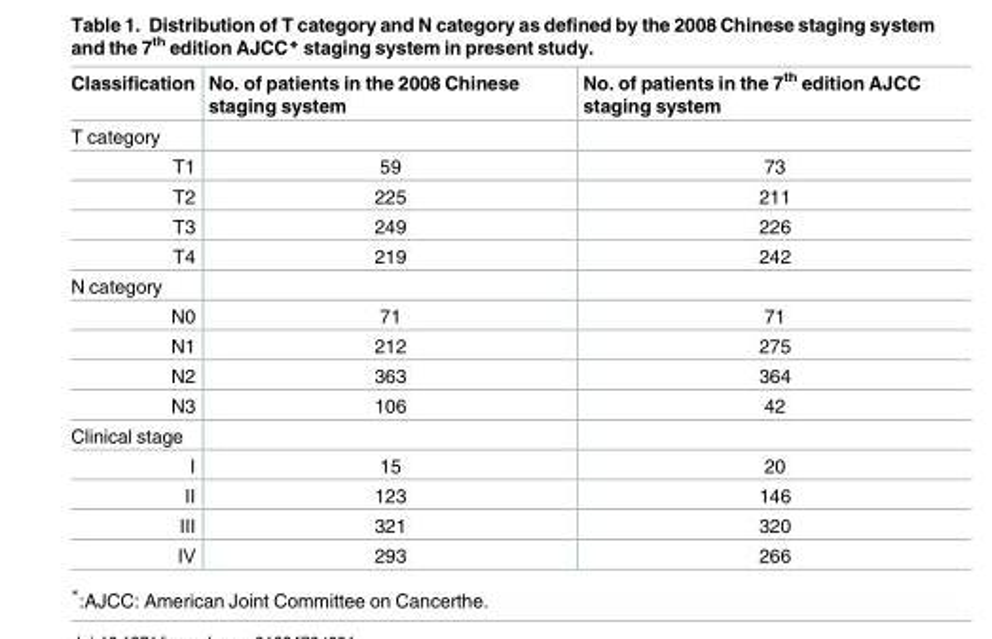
<table><thead><tr><td>Classification</td><td>No. of patients in the 2008 Chinese staging system</td><td>No. of patients in the 7<sup>th</sup> edition AJCC staging system</td></tr></thead><tbody><tr><td colspan="3">T category</td></tr><tr><td>T1</td><td>59</td><td>73</td></tr><tr><td>T2</td><td>225</td><td>211</td></tr><tr><td>T3</td><td>249</td><td>226</td></tr><tr><td>T4</td><td>219</td><td>242</td></tr><tr><td colspan="3">N category</td></tr><tr><td>N0</td><td>71</td><td>71</td></tr><tr><td>N1</td><td>212</td><td>275</td></tr><tr><td>N2</td><td>363</td><td>364</td></tr><tr><td>N3</td><td>106</td><td>42</td></tr><tr><td colspan="3">Clinical stage</td></tr><tr><td>Ⅰ</td><td>15</td><td>20</td></tr><tr><td>Ⅱ</td><td>123</td><td>146</td></tr><tr><td>Ⅲ</td><td>321</td><td>320</td></tr><tr><td>Ⅳ</td><td>293</td><td>266</td></tr></tbody></table>